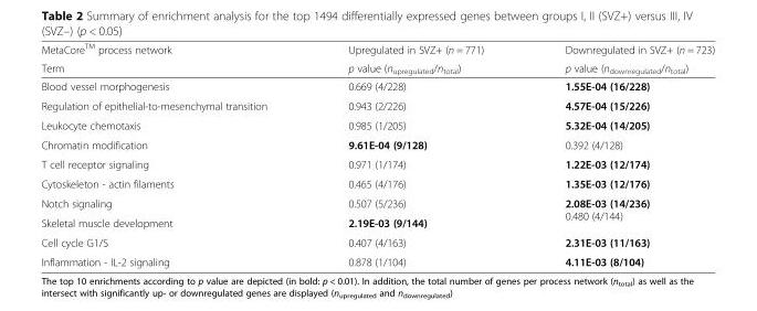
<table><thead><tr><td rowspan="2">MetaCore<sup>TM</sup> process network Term</td><td rowspan="2">Upregulated in SVZ+ (n = 771) p value (n<sub>upregulated</sub>/n<sub>total</sub>)</td><td rowspan="2">Downregulated in SVZ+ (n = 723) p value (n<sub>downregulated</sub>/n<sub>total</sub>)</td></tr><tr></tr></thead><tbody><tr><td>Blood vessel morphogenesis</td><td>0.669 (4/228)</td><td>1.55E-04 (16/228)</td></tr><tr><td>Regulation of epithelial-to-mesenchymal transition</td><td>0.943 (2/226)</td><td>4.57E-04 (15/226)</td></tr><tr><td>Leukocyte chemotaxis</td><td>0.985 (1/205)</td><td>5.32E-04 (14/205)</td></tr><tr><td>Chromatin modification</td><td>9.61E-04 (9/128)</td><td>0.392 (4/128)</td></tr><tr><td>T cell receptor signaling</td><td>0.971 (1/174)</td><td>1.22E-03 (12/174)</td></tr><tr><td>Cytoskeleton - actin filaments</td><td>0.465 (4/176)</td><td>1.35E-03 (12/176)</td></tr><tr><td>Notch signaling</td><td>0.507 (5/236)</td><td rowspan="2">2.08E-03 (14/236) 0.480 (4/144)</td></tr><tr><td>Skeletal muscle development</td><td>2.19E-03 (9/144)</td></tr><tr><td>Cell cycle G1/S</td><td>0.407 (4/163)</td><td>2.31E-03 (11/163)</td></tr><tr><td>Inflammation - IL-2 signaling</td><td>0.878 (1/104)</td><td>4.11E-03 (8/104)</td></tr></tbody></table>